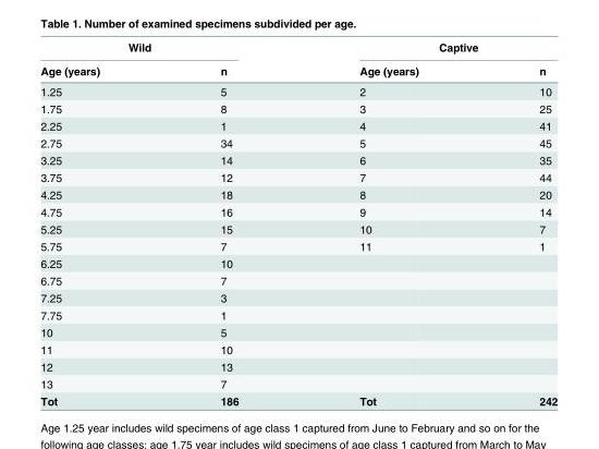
<table><thead><tr><td colspan="2">Wild</td><td colspan="2">Captive</td></tr><tr><td>Age (years)</td><td>n</td><td>Age (years)</td><td>n</td></tr></thead><tbody><tr><td>1.25</td><td>5</td><td>2</td><td>10</td></tr><tr><td>1.75</td><td>8</td><td>3</td><td>25</td></tr><tr><td>2.25</td><td>1</td><td>4</td><td>41</td></tr><tr><td>2.75</td><td>34</td><td>5</td><td>45</td></tr><tr><td>3.25</td><td>14</td><td>6</td><td>35</td></tr><tr><td>3.75</td><td>12</td><td>7</td><td>44</td></tr><tr><td>4.25</td><td>18</td><td>8</td><td>20</td></tr><tr><td>4.75</td><td>16</td><td>9</td><td>14</td></tr><tr><td>5.25</td><td>15</td><td>10</td><td>7</td></tr><tr><td>5.75</td><td>7</td><td>11</td><td>1</td></tr><tr><td>6.25</td><td>10</td><td></td><td></td></tr><tr><td>6.75</td><td>7</td><td></td><td></td></tr><tr><td>7.25</td><td>3</td><td></td><td></td></tr><tr><td>7.75</td><td>1</td><td></td><td></td></tr><tr><td>10</td><td>5</td><td></td><td></td></tr><tr><td>11</td><td>10</td><td></td><td></td></tr><tr><td>12</td><td>13</td><td></td><td></td></tr><tr><td>13</td><td>7</td><td></td><td></td></tr><tr><td>Tot</td><td>186</td><td>Tot</td><td>242</td></tr></tbody></table>